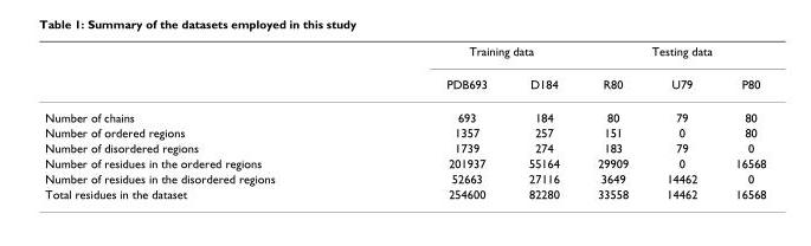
<table><thead><tr><td rowspan="2"></td><td colspan="2">Training data</td><td colspan="3">Testing data</td></tr><tr><td>PDB693</td><td>D184</td><td>R80</td><td>U79</td><td>P80</td></tr></thead><tbody><tr><td>Number of chains</td><td>693</td><td>184</td><td>80</td><td>79</td><td>80</td></tr><tr><td>Number of ordered regions</td><td>1357</td><td>257</td><td>151</td><td>0</td><td>80</td></tr><tr><td>Number of disordered regions</td><td>1739</td><td>274</td><td>183</td><td>79</td><td>0</td></tr><tr><td>Number of residues in the ordered regions</td><td>201937</td><td>55164</td><td>29909</td><td>0</td><td>16568</td></tr><tr><td>Number of residues in the disordered regions</td><td>52663</td><td>27116</td><td>3649</td><td>14462</td><td>0</td></tr><tr><td>Total residues in the dataset</td><td>254600</td><td>82280</td><td>33558</td><td>14462</td><td>16568</td></tr></tbody></table>